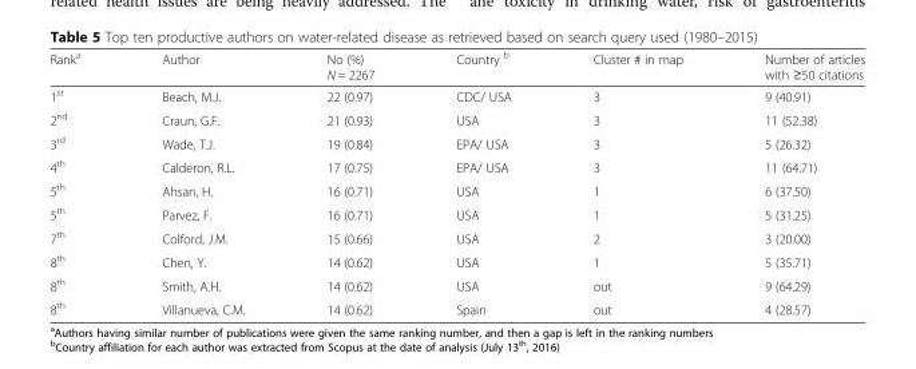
<table><thead><tr><td>Rank<sup>a</sup></td><td>Author</td><td>No (%) N = 2267</td><td>Country <sup>b</sup></td><td>Cluster # in map</td><td>Number of articles with ≥50 citations</td></tr></thead><tbody><tr><td>1<sup>st</sup></td><td>Beach, M.J.</td><td>22 (0.97)</td><td>CDC/ USA</td><td>3</td><td>9 (40.91)</td></tr><tr><td>2<sup>nd</sup></td><td>Craun, G.F.</td><td>21 (0.93)</td><td>USA</td><td>3</td><td>11 (52.38)</td></tr><tr><td>3<sup>rd</sup></td><td>Wade, T.J.</td><td>19 (0.84)</td><td>EPA/ USA</td><td>3</td><td>5 (26.32)</td></tr><tr><td>4<sup>th</sup></td><td>Calderon, R.L.</td><td>17 (0.75)</td><td>EPA/ USA</td><td>3</td><td>11 (64.71)</td></tr><tr><td>5<sup>th</sup></td><td>Ahsan, H.</td><td>16 (0.71)</td><td>USA</td><td>1</td><td>6 (37.50)</td></tr><tr><td>5<sup>th</sup></td><td>Parvez, F.</td><td>16 (0.71)</td><td>USA</td><td>1</td><td>5 (31.25)</td></tr><tr><td>7<sup>th</sup></td><td>Colford, J.M.</td><td>15 (0.66)</td><td>USA</td><td>2</td><td>3 (20.00)</td></tr><tr><td>8<sup>th</sup></td><td>Chen, Y.</td><td>14 (0.62)</td><td>USA</td><td>1</td><td>5 (35.71)</td></tr><tr><td>8<sup>th</sup></td><td>Smith, A.H.</td><td>14 (0.62)</td><td>USA</td><td>out</td><td>9 (64.29)</td></tr><tr><td>8<sup>th</sup></td><td>Villanueva, C.M.</td><td>14 (0.62)</td><td>Spain</td><td>out</td><td>4 (28.57)</td></tr></tbody></table>